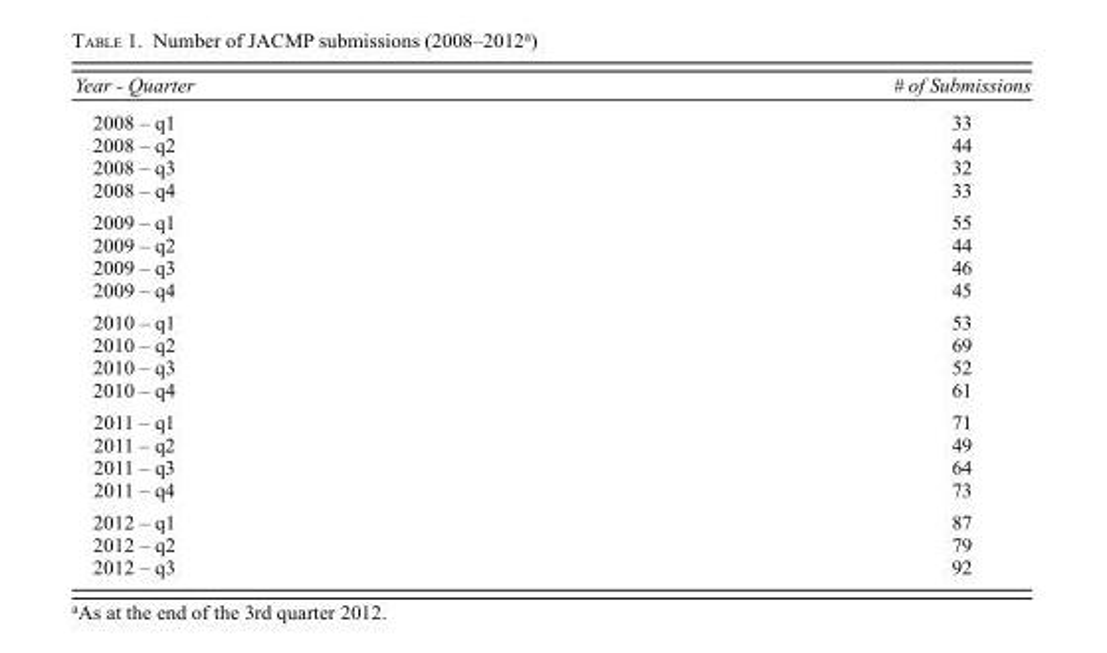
<table><thead><tr><td>Year - Quarter</td><td># of Submissions</td></tr></thead><tbody><tr><td>2008 – q1</td><td>33</td></tr><tr><td>2008 – q2</td><td>44</td></tr><tr><td>2008 – q3</td><td>32</td></tr><tr><td>2008 – q4</td><td>33</td></tr><tr><td>2009 – q1</td><td>55</td></tr><tr><td>2009 – q2</td><td>44</td></tr><tr><td>2009 – q3</td><td>46</td></tr><tr><td>2009 – q4</td><td>45</td></tr><tr><td>2010 – q1</td><td>53</td></tr><tr><td>2010 – q2</td><td>69</td></tr><tr><td>2010 – q3</td><td>52</td></tr><tr><td>2010 – q4</td><td>61</td></tr><tr><td>2011 – q1</td><td>71</td></tr><tr><td>2011 – q2</td><td>49</td></tr><tr><td>2011 – q3</td><td>64</td></tr><tr><td>2011 – q4</td><td>73</td></tr><tr><td>2012 – q1</td><td>87</td></tr><tr><td>2012 – q2</td><td>79</td></tr><tr><td>2012 – q3</td><td>92</td></tr></tbody></table>